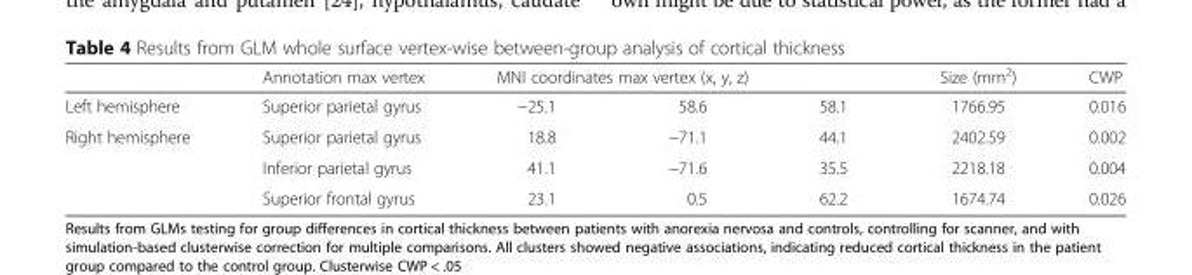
<table><thead><tr><td rowspan="2">Left hemisphere</td><td rowspan="2">Annotation max vertex Superior parietal gyrus</td><td colspan="3">MNI coordinates max vertex (x, y, z)</td><td rowspan="2">Size (mm<sup>2</sup>) 1766.95</td><td rowspan="2">CWP 0.016</td></tr><tr><td>−25.1</td><td>58.6</td><td>58.1</td></tr></thead><tbody><tr><td rowspan="3">Right hemisphere</td><td>Superior parietal gyrus</td><td>18.8</td><td>−71.1</td><td>44.1</td><td>2402.59</td><td>0.002</td></tr><tr><td>Inferior parietal gyrus</td><td>41.1</td><td>−71.6</td><td>35.5</td><td>2218.18</td><td>0.004</td></tr><tr><td>Superior frontal gyrus</td><td>23.1</td><td>0.5</td><td>62.2</td><td>1674.74</td><td>0.026</td></tr></tbody></table>